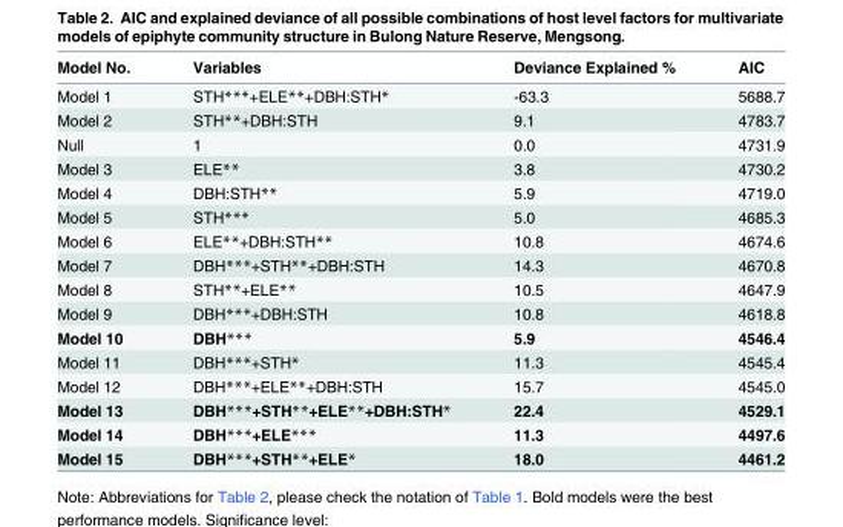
<table><thead><tr><td>Model No.</td><td>Variables</td><td>Deviance Explained %</td><td>AIC</td></tr></thead><tbody><tr><td>Model 1</td><td>STH***+ELE**+DBH:STH*</td><td>-63.3</td><td>5688.7</td></tr><tr><td>Model 2</td><td>STH**+DBH:STH</td><td>9.1</td><td>4783.7</td></tr><tr><td>Null</td><td>1</td><td>0.0</td><td>4731.9</td></tr><tr><td>Model 3</td><td>ELE**</td><td>3.8</td><td>4730.2</td></tr><tr><td>Model 4</td><td>DBH:STH**</td><td>5.9</td><td>4719.0</td></tr><tr><td>Model 5</td><td>STH***</td><td>5.0</td><td>4685.3</td></tr><tr><td>Model 6</td><td>ELE**+DBH:STH**</td><td>10.8</td><td>4674.6</td></tr><tr><td>Model 7</td><td>DBH***+STH**+DBH:STH</td><td>14.3</td><td>4670.8</td></tr><tr><td>Model 8</td><td>STH**+ELE**</td><td>10.5</td><td>4647.9</td></tr><tr><td>Model 9</td><td>DBH***+DBH:STH</td><td>10.8</td><td>4618.8</td></tr><tr><td>Model 10</td><td>DBH***</td><td>5.9</td><td>4546.4</td></tr><tr><td>Model 11</td><td>DBH***+STH*</td><td>11.3</td><td>4545.4</td></tr><tr><td>Model 12</td><td>DBH***+ELE**+DBH:STH</td><td>15.7</td><td>4545.0</td></tr><tr><td>Model 13</td><td>DBH***+STH**+ELE**+DBH:STH*</td><td>22.4</td><td>4529.1</td></tr><tr><td>Model 14</td><td>DBH***+ELE***</td><td>11.3</td><td>4497.6</td></tr><tr><td>Model 15</td><td>DBH***+STH**+ELE*</td><td>18.0</td><td>4461.2</td></tr></tbody></table>